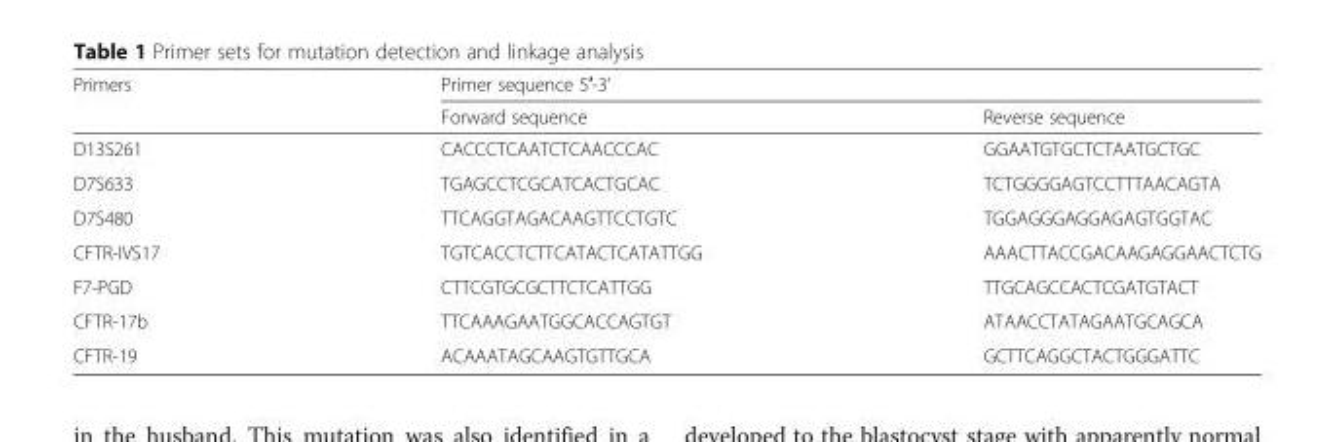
<table><thead><tr><td rowspan="2">Primers</td><td colspan="2">Primer sequence 5′-3’</td></tr><tr><td>Forward sequence</td><td>Reverse sequence</td></tr></thead><tbody><tr><td>D13S261</td><td>CACCCTCAATCTCAACCCAC</td><td>GGAATGTGCTCTAATGCTGC</td></tr><tr><td>D7S633</td><td>TGAGCCTCGCATCACTGCAC</td><td>TCTGGGGAGTCCTTTAACAGTA</td></tr><tr><td>D7S480</td><td>TTCAGGTAGACAAGTTCCTGTC</td><td>TGGAGGGAGGAGAGTGGTAC</td></tr><tr><td>CFTR-IVS17</td><td>TGTCACCTCTTCATACTCATATTGG</td><td>AAACTTACCGACAAGAGGAACTCTG</td></tr><tr><td>F7-PGD</td><td>CTTCGTGCGCTTCTCATTGG</td><td>TTGCAGCCACTCGATGTACT</td></tr><tr><td>CFTR-17b</td><td>TTCAAAGAATGGCACCAGTGT</td><td>ATAACCTATAGAATGCAGCA</td></tr><tr><td>CFTR-19</td><td>ACAAATAGCAAGTGTTGCA</td><td>GCTTCAGGCTACTGGGATTC</td></tr></tbody></table>